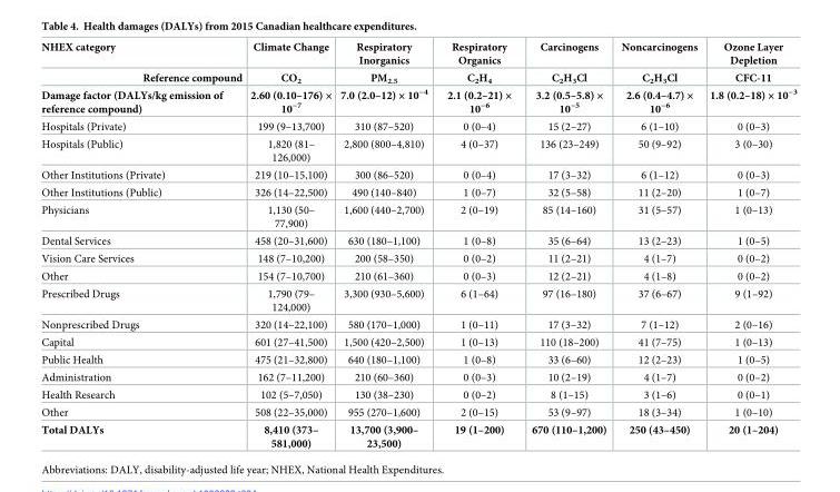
<table><thead><tr><td rowspan="3">NHEX category Reference compound Damage factor (DALYs/kg emission of reference compound)</td><td rowspan="3">Climate Change CO<sub>2</sub> 2.60 (0.10–176) × 10<sup>−7</sup></td><td rowspan="3">Respiratory Inorganics PM<sub>2.5</sub> 7.0 (2.0–12) × 10<sup>−4</sup></td><td rowspan="3">Respiratory Organics C<sub>2</sub>H<sub>4</sub> 2.1 (0.2–21) × 10<sup>−6</sup></td><td rowspan="3">Carcinogens C<sub>2</sub>H<sub>3</sub>Cl 3.2 (0.5–5.8) × 10<sup>−5</sup></td><td rowspan="3">Noncarcinogens C<sub>2</sub>H<sub>3</sub>Cl 2.6 (0.4–4.7) × 10<sup>−6</sup></td><td rowspan="3">Ozone Layer Depletion CFC-11 1.8 (0.2–18) × 10<sup>−3</sup></td></tr><tr></tr><tr></tr></thead><tbody><tr><td>Hospitals (Private)</td><td>199 (9–13,700)</td><td>310 (87–520)</td><td>0 (0–4)</td><td>15 (2–27)</td><td>6 (1–10)</td><td>0 (0–3)</td></tr><tr><td>Hospitals (Public)</td><td>1,820 (81– 126,000)</td><td>2,800 (800–4,810)</td><td>4 (0–37)</td><td>136 (23–249)</td><td>50 (9–92)</td><td>3 (0–30)</td></tr><tr><td>Other Institutions (Private)</td><td>219 (10–15,100)</td><td>300 (86–520)</td><td>0 (0–4)</td><td>17 (3–32)</td><td>6 (1–12)</td><td>0 (0–3)</td></tr><tr><td>Other Institutions (Public)</td><td>326 (14–22,500)</td><td>490 (140–840)</td><td>1 (0–7)</td><td>32 (5–58)</td><td>11 (2–20)</td><td>1 (0–7)</td></tr><tr><td>Physicians</td><td>1,130 (50– 77,900)</td><td>1,600 (440–2,700)</td><td>2 (0–19)</td><td>85 (14–160)</td><td>31 (5–57)</td><td>1 (0–13)</td></tr><tr><td>Dental Services</td><td>458 (20–31,600)</td><td>630 (180–1,100)</td><td>1 (0–8)</td><td>35 (6–64)</td><td>13 (2–23)</td><td>1 (0–5)</td></tr><tr><td>Vision Care Services</td><td>148 (7–10,200)</td><td>200 (58–350)</td><td>0 (0–2)</td><td>11 (2–21)</td><td>4 (1–7)</td><td>0 (0–2)</td></tr><tr><td>Other</td><td>154 (7–10,700)</td><td>210 (61–360)</td><td>0 (0–3)</td><td>12 (2–21)</td><td>4 (1–8)</td><td>0 (0–2)</td></tr><tr><td>Prescribed Drugs</td><td>1,790 (79– 124,000)</td><td>3,300 (930–5,600)</td><td>6 (1–64)</td><td>97 (16–180)</td><td>37 (6–67)</td><td>9 (1–92)</td></tr><tr><td>Nonprescribed Drugs</td><td>320 (14–22,100)</td><td>580 (170–1,000)</td><td>1 (0–11)</td><td>17 (3–32)</td><td>7 (1–12)</td><td>2 (0–16)</td></tr><tr><td>Capital</td><td>601 (27–41,500)</td><td>1,500 (420–2,500)</td><td>1 (0–13)</td><td>110 (18–200)</td><td>41 (7–75)</td><td>1 (0–13)</td></tr><tr><td>Public Health</td><td>475 (21–32,800)</td><td>640 (180–1,100)</td><td>1 (0–8)</td><td>33 (6–60)</td><td>12 (2–23)</td><td>1 (0–5)</td></tr><tr><td>Administration</td><td>162 (7–11,200)</td><td>210 (60–360)</td><td>0 (0–3)</td><td>10 (2–19)</td><td>4 (1–7)</td><td>0 (0–2)</td></tr><tr><td>Health Research</td><td>102 (5–7,050)</td><td>130 (38–230)</td><td>0 (0–2)</td><td>8 (1–15)</td><td>3 (1–6)</td><td>0 (0–1)</td></tr><tr><td>Other</td><td>508 (22–35,000)</td><td>955 (270–1,600)</td><td>2 (0–15)</td><td>53 (9–97)</td><td>18 (3–34)</td><td>1 (0–10)</td></tr><tr><td>Total DALYs</td><td>8,410 (373– 581,000)</td><td>13,700 (3,900– 23,500)</td><td>19 (1–200)</td><td>670 (110–1,200)</td><td>250 (43–450)</td><td>20 (1–204)</td></tr></tbody></table>